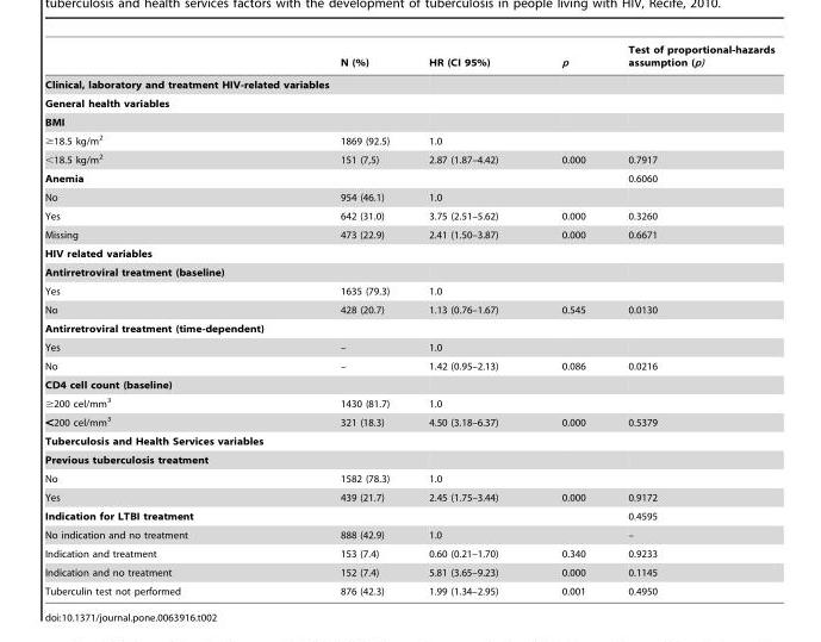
<table><thead><tr><td></td><td>N (%)</td><td>HR (CI 95%)</td><td>p</td><td>Test of proportional-hazards assumption (p)</td></tr></thead><tbody><tr><td colspan="5">Clinical, laboratory and treatment HIV-related variables</td></tr><tr><td colspan="5">General health variables</td></tr><tr><td colspan="5">BMI</td></tr><tr><td>≥18.5 kg/m<sup>2</sup></td><td>1869 (92.5)</td><td>1.0</td><td></td><td></td></tr><tr><td>&lt;18.5 kg/m<sup>2</sup></td><td>151 (7,5)</td><td>2.87 (1.87–4.42)</td><td>0.000</td><td>0.7917</td></tr><tr><td>Anemia</td><td></td><td></td><td></td><td>0.6060</td></tr><tr><td>No</td><td>954 (46.1)</td><td>1.0</td><td></td><td></td></tr><tr><td>Yes</td><td>642 (31.0)</td><td>3.75 (2.51–5.62)</td><td>0.000</td><td>0.3260</td></tr><tr><td>Missing</td><td>473 (22.9)</td><td>2.41 (1.50–3.87)</td><td>0.000</td><td>0.6671</td></tr><tr><td colspan="5">HIV related variables</td></tr><tr><td colspan="5">Antirretroviral treatment (baseline)</td></tr><tr><td>Yes</td><td>1635 (79.3)</td><td>1.0</td><td></td><td></td></tr><tr><td>No</td><td>428 (20.7)</td><td>1.13 (0.76–1.67)</td><td>0.545</td><td>0.0130</td></tr><tr><td colspan="5">Antirretroviral treatment (time-dependent)</td></tr><tr><td>Yes</td><td>–</td><td>1.0</td><td></td><td></td></tr><tr><td>No</td><td>–</td><td>1.42 (0.95–2.13)</td><td>0.086</td><td>0.0216</td></tr><tr><td colspan="5">CD4 cell count (baseline)</td></tr><tr><td>≥200 cel/mm<sup>3</sup></td><td>1430 (81.7)</td><td>1.0</td><td></td><td></td></tr><tr><td>&lt;200 cel/mm<sup>3</sup></td><td>321 (18.3)</td><td>4.50 (3.18–6.37)</td><td>0.000</td><td>0.5379</td></tr><tr><td colspan="5">Tuberculosis and Health Services variables</td></tr><tr><td colspan="5">Previous tuberculosis treatment</td></tr><tr><td>No</td><td>1582 (78.3)</td><td>1.0</td><td></td><td></td></tr><tr><td>Yes</td><td>439 (21.7)</td><td>2.45 (1.75–3.44)</td><td>0.000</td><td>0.9172</td></tr><tr><td>Indication for LTBI treatment</td><td></td><td></td><td></td><td>0.4595</td></tr><tr><td>No indication and no treatment</td><td>888 (42.9)</td><td>1.0</td><td></td><td>–</td></tr><tr><td>Indication and treatment</td><td>153 (7.4)</td><td>0.60 (0.21–1.70)</td><td>0.340</td><td>0.9233</td></tr><tr><td>Indication and no treatment</td><td>152 (7.4)</td><td>5.81 (3.65–9.23)</td><td>0.000</td><td>0.1145</td></tr><tr><td>Tuberculin test not performed</td><td>876 (42.3)</td><td>1.99 (1.34–2.95)</td><td>0.001</td><td>0.4950</td></tr></tbody></table>